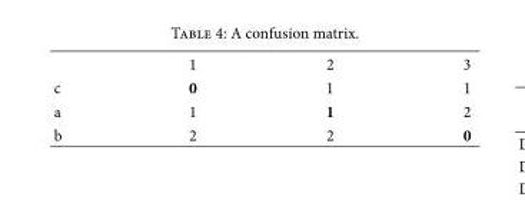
<table><thead><tr><td></td><td>1</td><td>2</td><td>3</td></tr></thead><tbody><tr><td>c</td><td>0</td><td>1</td><td>1</td></tr><tr><td>a</td><td>1</td><td>1</td><td>2</td></tr><tr><td>b</td><td>2</td><td>2</td><td>0</td></tr></tbody></table>